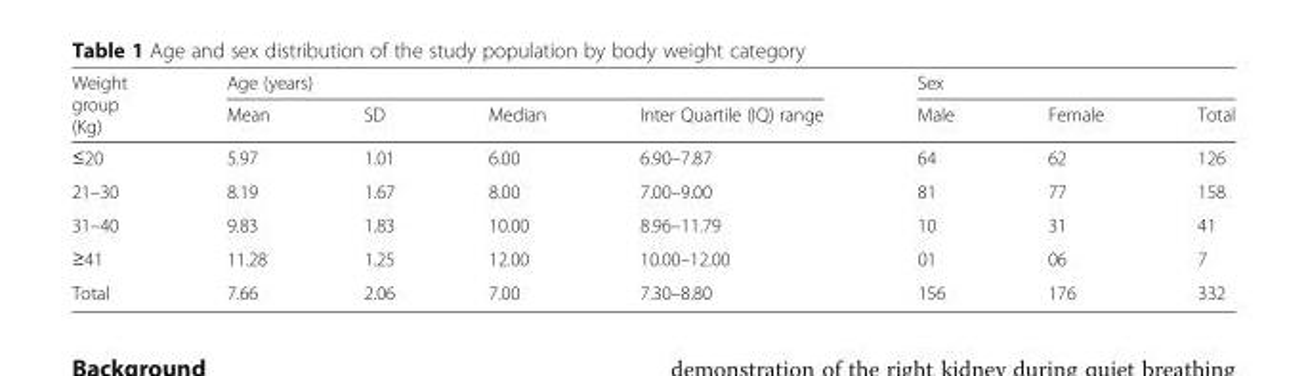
<table><thead><tr><td rowspan="2">Weight group (Kg)</td><td colspan="4">Age (years)</td><td colspan="3">Sex</td></tr><tr><td>Mean</td><td>SD</td><td>Median</td><td>Inter Quartile (IQ) range</td><td>Male</td><td>Female</td><td>Total</td></tr></thead><tbody><tr><td>≤20</td><td>5.97</td><td>1.01</td><td>6.00</td><td>6.90–7.87</td><td>64</td><td>62</td><td>126</td></tr><tr><td>21–30</td><td>8.19</td><td>1.67</td><td>8.00</td><td>7.00–9.00</td><td>81</td><td>77</td><td>158</td></tr><tr><td>31–40</td><td>9.83</td><td>1.83</td><td>10.00</td><td>8.96–11.79</td><td>10</td><td>31</td><td>41</td></tr><tr><td>≥41</td><td>11.28</td><td>1.25</td><td>12.00</td><td>10.00–12.00</td><td>01</td><td>06</td><td>7</td></tr><tr><td>Total</td><td>7.66</td><td>2.06</td><td>7.00</td><td>7.30–8.80</td><td>156</td><td>176</td><td>332</td></tr></tbody></table>